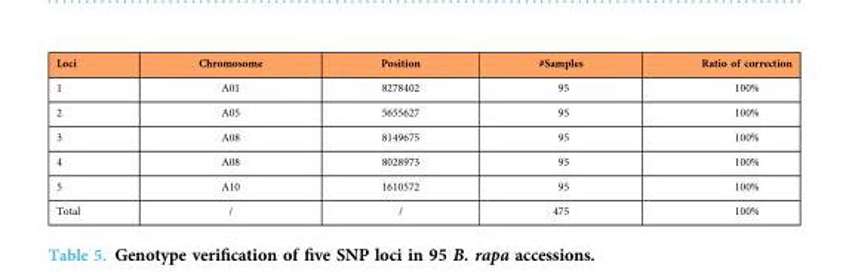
<table><thead><tr><td>Loci</td><td>Chromosome</td><td>Position</td><td>#Samples</td><td>Ratio of correction</td></tr></thead><tbody><tr><td>1</td><td>A01</td><td>8278402</td><td>95</td><td>100%</td></tr><tr><td>2</td><td>A05</td><td>5655627</td><td>95</td><td>100%</td></tr><tr><td>3</td><td>A08</td><td>8149675</td><td>95</td><td>100%</td></tr><tr><td>4</td><td>A08</td><td>8028973</td><td>95</td><td>100%</td></tr><tr><td>5</td><td>A10</td><td>1610572</td><td>95</td><td>100%</td></tr><tr><td>Total</td><td>/</td><td>/</td><td>475</td><td>100%</td></tr></tbody></table>